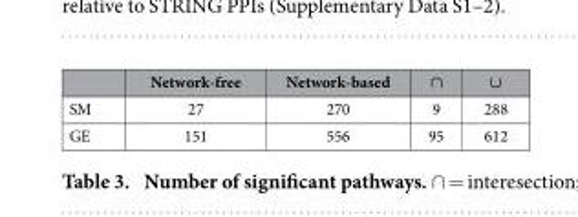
<table><thead><tr><td></td><td>Network-free</td><td>Network-based</td><td>∩</td><td>∪</td></tr></thead><tbody><tr><td>SM</td><td>27</td><td>270</td><td>9</td><td>288</td></tr><tr><td>GE</td><td>151</td><td>556</td><td>95</td><td>612</td></tr></tbody></table>